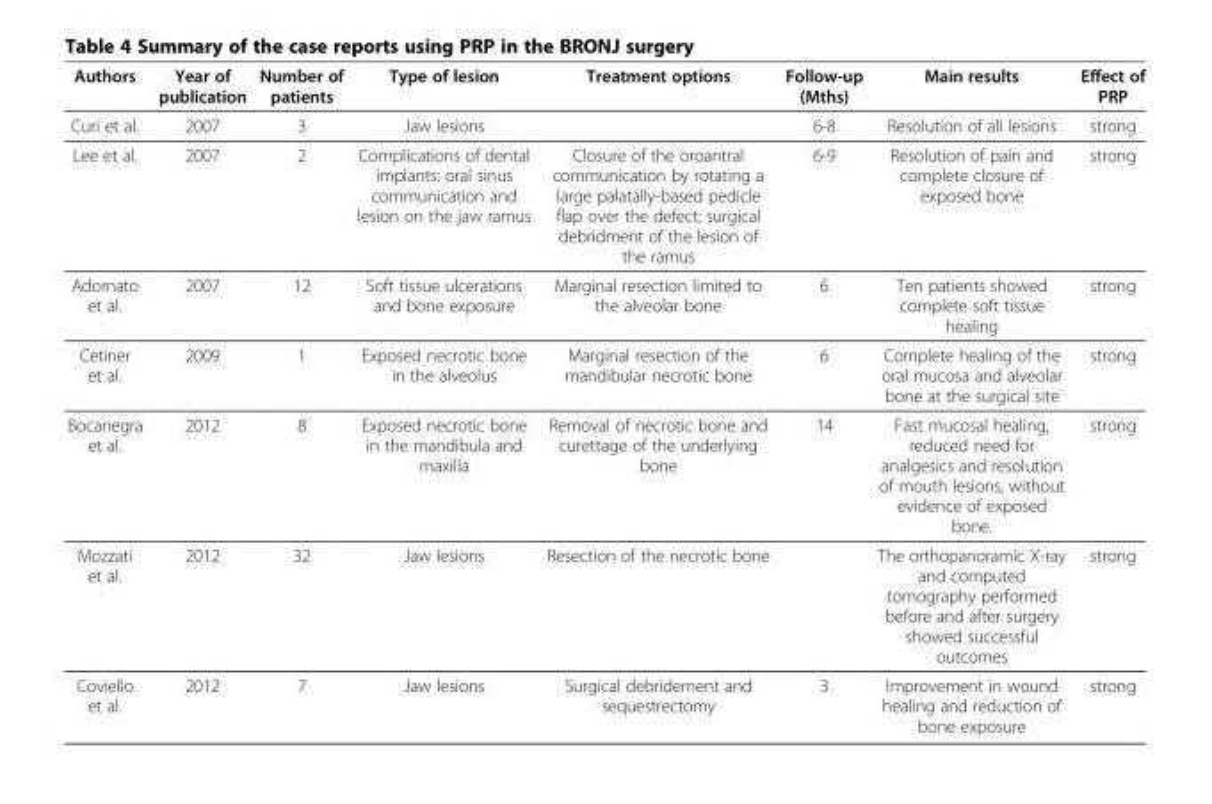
<table><thead><tr><td>Authors</td><td>Year of publication</td><td>Number of patients</td><td>Type of lesion</td><td>Treatment options</td><td>Follow-up (Mths)</td><td>Main results</td><td>Effect of PRP</td></tr></thead><tbody><tr><td>Curi et al.</td><td>2007</td><td>3</td><td>Jaw lesions</td><td></td><td>6-8</td><td>Resolution of all lesions</td><td>strong</td></tr><tr><td>Lee et al.</td><td>2007</td><td>2</td><td>Complications of dental implants: oral sinus communication and lesion on the jaw ramus</td><td>Closure of the oroantral communication by rotating a large palatally-based pedicle flap over the defect; surgical debridment of the lesion of the ramus</td><td>6-9</td><td>Resolution of pain and complete closure of exposed bone</td><td>strong</td></tr><tr><td>Adornato et al.</td><td>2007</td><td>12</td><td>Soft tissue ulcerations and bone exposure</td><td>Marginal resection limited to the alveolar bone</td><td>6</td><td>Ten patients showed complete soft tissue healing</td><td>strong</td></tr><tr><td>Cetiner et al.</td><td>2009</td><td>1</td><td>Exposed necrotic bone in the alveolus</td><td>Marginal resection of the mandibular necrotic bone</td><td>6</td><td>Complete healing of the oral mucosa and alveolar bone at the surgical site</td><td>strong</td></tr><tr><td>Bocanegra et al.</td><td>2012</td><td>8</td><td>Exposed necrotic bone in the mandibula and maxilla</td><td>Removal of necrotic bone and curettage of the underlying bone</td><td>14</td><td>Fast mucosal healing, reduced need for analgesics and resolution of mouth lesions, without evidence of exposed bone.</td><td>strong</td></tr><tr><td>Mozzati et al.</td><td>2012</td><td>32</td><td>Jaw lesions</td><td>Resection of the necrotic bone</td><td></td><td>The orthopanoramic X-ray and computed tomography performed before and after surgery showed successful outcomes</td><td>strong</td></tr><tr><td>Coviello et al.</td><td>2012</td><td>7</td><td>Jaw lesions</td><td>Surgical debridement and sequestrectomy</td><td>3</td><td>Improvement in wound healing and reduction of bone exposure</td><td>strong</td></tr></tbody></table>